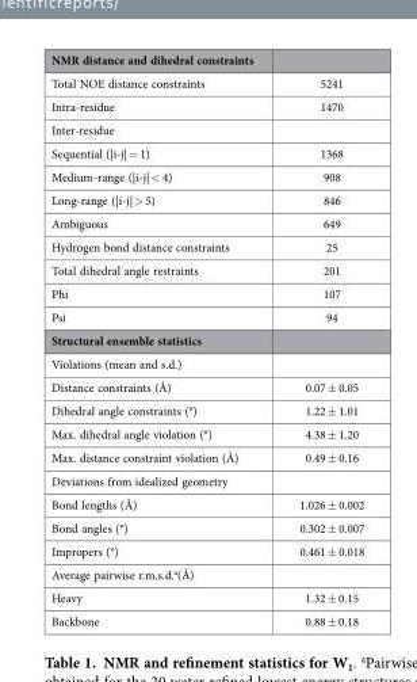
<table><thead><tr><td>NMR distance and dihedral constraints</td><td></td></tr></thead><tbody><tr><td>Total NOE distance constraints</td><td>5241</td></tr><tr><td>Intra-residue</td><td>1470</td></tr><tr><td colspan="2">Inter-residue</td></tr><tr><td>Sequential (|i-j| = 1)</td><td>1368</td></tr><tr><td>Medium-range (|i-j| &lt; 4)</td><td>908</td></tr><tr><td>Long-range (|i-j| &gt; 5)</td><td>846</td></tr><tr><td>Ambiguous</td><td>649</td></tr><tr><td>Hydrogen bond distance constraints</td><td>25</td></tr><tr><td>Total dihedral angle restraints</td><td>201</td></tr><tr><td>Phi</td><td>107</td></tr><tr><td>Psi</td><td>94</td></tr><tr><td colspan="2">Structural ensemble statistics</td></tr><tr><td colspan="2">Violations (mean and s.d.)</td></tr><tr><td>Distance constraints (Å)</td><td>0.07 ± 0.05</td></tr><tr><td>Dihedral angle constraints (°)</td><td>1.22 ± 1.01</td></tr><tr><td>Max. dihedral angle violation (°)</td><td>4.38 ± 1.20</td></tr><tr><td>Max. distance constraint violation (Å)</td><td>0.49 ± 0.16</td></tr><tr><td colspan="2">Deviations from idealized geometry</td></tr><tr><td>Bond lengths (Å)</td><td>1.026 ± 0.002</td></tr><tr><td>Bond angles (°)</td><td>0.302 ± 0.007</td></tr><tr><td>Impropers (°)</td><td>0.461 ± 0.018</td></tr><tr><td colspan="2">Average pairwise r.m.s.d.<sup>a</sup>(Å)</td></tr><tr><td>Heavy</td><td>1.32 ± 0.15</td></tr><tr><td>Backbone</td><td>0.88 ± 0.18</td></tr></tbody></table>